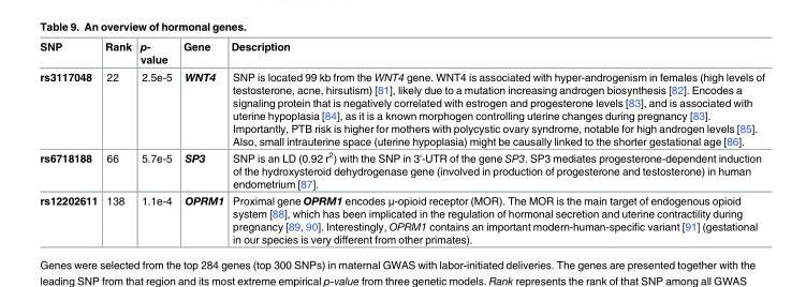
<table><thead><tr><td>SNP</td><td>Rank</td><td>p- value</td><td>Gene</td><td>Description</td></tr></thead><tbody><tr><td>rs3117048</td><td>22</td><td>2.5e-5</td><td>WNT4</td><td>SNP is located 99 kb from the WNT4 gene. WNT4 is associated with hyper-androgenism in females (high levels of testosterone, acne, hirsutism) [81], likely due to a mutation increasing androgen biosynthesis [82]. Encodes a signaling protein that is negatively correlated with estrogen and progesterone levels [83], and is associated with uterine hypoplasia [84], as it is a known morphogen controlling uterine changes during pregnancy [83]. Importantly, PTB risk is higher for mothers with polycystic ovary syndrome, notable for high androgen levels [85]. Also, small intrauterine space (uterine hypoplasia) might be causally linked to the shorter gestational age [86].</td></tr><tr><td>rs6718188</td><td>66</td><td>5.7e-5</td><td>SP3</td><td>SNP is an LD (0.92 r<sup>2</sup>) with the SNP in 3&#x27;-UTR of the gene SP3. SP3 mediates progesterone-dependent induction of the hydroxysteroid dehydrogenase gene (involved in production of progesterone and testosterone) in human endometrium [87].</td></tr><tr><td>rs12202611</td><td>138</td><td>1.1e-4</td><td>OPRM1</td><td>Proximal gene OPRM1 encodes μ-opioid receptor (MOR). The MOR is the main target of endogenous opioid system [88], which has been implicated in the regulation of hormonal secretion and uterine contractility during pregnancy [89, 90]. Interestingly, OPRM1 contains an important modern-human-specific variant [91] (gestational in our species is very different from other primates).</td></tr></tbody></table>